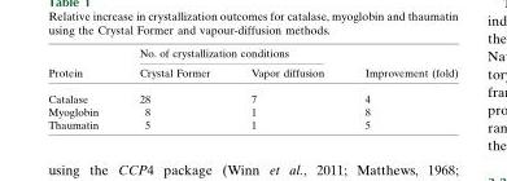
<table><thead><tr><td rowspan="2">Protein</td><td colspan="2">No. of crystallization conditions</td><td rowspan="2">Improvement (fold)</td></tr><tr><td>Crystal Former</td><td>Vapor diffusion</td></tr></thead><tbody><tr><td>Catalase</td><td>28</td><td>7</td><td>4</td></tr><tr><td>Myoglobin</td><td>8</td><td>1</td><td>8</td></tr><tr><td>Thaumatin</td><td>5</td><td>1</td><td>5</td></tr></tbody></table>